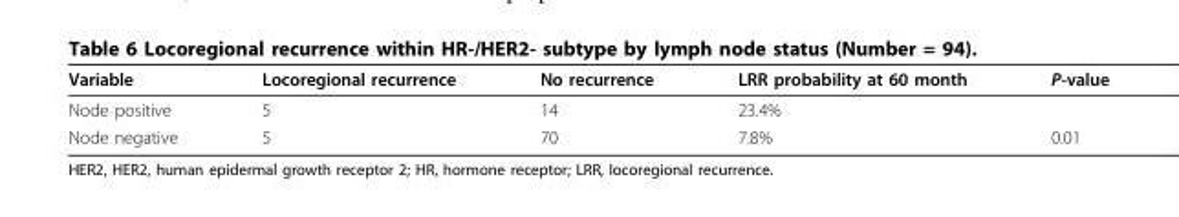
<table><thead><tr><td>Variable</td><td>Locoregional recurrence</td><td>No recurrence</td><td>LRR probability at 60 month</td><td>P-value</td></tr></thead><tbody><tr><td>Node positive</td><td>5</td><td>14</td><td>23.4%</td><td></td></tr><tr><td>Node negative</td><td>5</td><td>70</td><td>7.8%</td><td>0.01</td></tr></tbody></table>